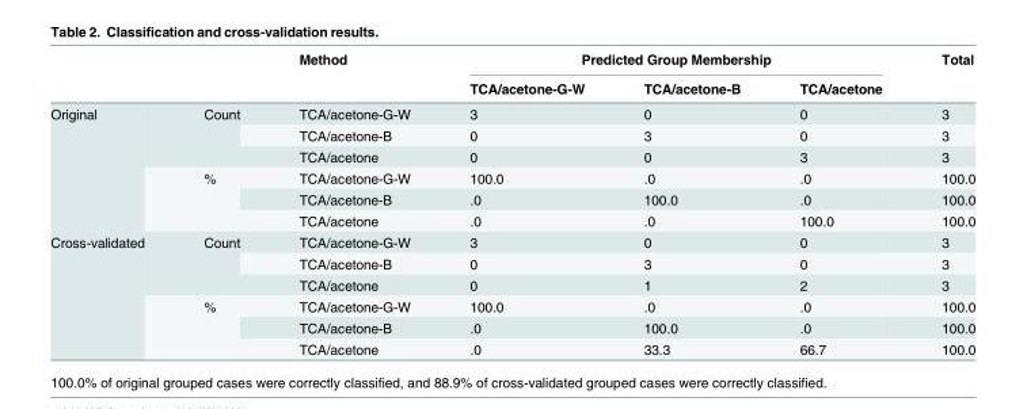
<table><thead><tr><td rowspan="2"></td><td rowspan="2"></td><td rowspan="2">Method</td><td colspan="3">Predicted Group Membership</td><td rowspan="2">Total</td></tr><tr><td>TCA/acetone-G-W</td><td>TCA/acetone-B</td><td>TCA/acetone</td></tr></thead><tbody><tr><td rowspan="6">Original</td><td rowspan="3">Count</td><td>TCA/acetone-G-W</td><td>3</td><td>0</td><td>0</td><td>3</td></tr><tr><td>TCA/acetone-B</td><td>0</td><td>3</td><td>0</td><td>3</td></tr><tr><td>TCA/acetone</td><td>0</td><td>0</td><td>3</td><td>3</td></tr><tr><td rowspan="3">%</td><td>TCA/acetone-G-W</td><td>100.0</td><td>.0</td><td>.0</td><td>100.0</td></tr><tr><td>TCA/acetone-B</td><td>.0</td><td>100.0</td><td>.0</td><td>100.0</td></tr><tr><td>TCA/acetone</td><td>.0</td><td>.0</td><td>100.0</td><td>100.0</td></tr><tr><td rowspan="6">Cross-validated</td><td rowspan="3">Count</td><td>TCA/acetone-G-W</td><td>3</td><td>0</td><td>0</td><td>3</td></tr><tr><td>TCA/acetone-B</td><td>0</td><td>3</td><td>0</td><td>3</td></tr><tr><td>TCA/acetone</td><td>0</td><td>1</td><td>2</td><td>3</td></tr><tr><td rowspan="3">%</td><td>TCA/acetone-G-W</td><td>100.0</td><td>.0</td><td>.0</td><td>100.0</td></tr><tr><td>TCA/acetone-B</td><td>.0</td><td>100.0</td><td>.0</td><td>100.0</td></tr><tr><td>TCA/acetone</td><td>.0</td><td>33.3</td><td>66.7</td><td>100.0</td></tr></tbody></table>